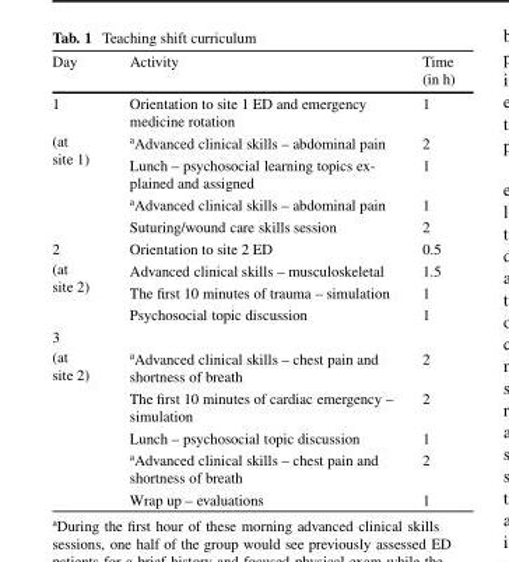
<table><thead><tr><td>Day</td><td>Activity</td><td>Time (in h)</td></tr></thead><tbody><tr><td>1</td><td>Orientation to site 1 ED and emergency medicine rotation</td><td>1</td></tr><tr><td rowspan="4">(at site 1)</td><td><sup>a</sup>Advanced clinical skills – abdominal pain</td><td>2</td></tr><tr><td>Lunch – psychosocial learning topics ex- plained and assigned</td><td>1</td></tr><tr><td><sup>a</sup>Advanced clinical skills – abdominal pain</td><td>1</td></tr><tr><td>Suturing/wound care skills session</td><td>2</td></tr><tr><td>2</td><td>Orientation to site 2 ED</td><td>0.5</td></tr><tr><td rowspan="3">(at site 2)</td><td>Advanced clinical skills – musculoskeletal</td><td>1.5</td></tr><tr><td>The first 10 minutes of trauma – simulation</td><td>1</td></tr><tr><td>Psychosocial topic discussion</td><td>1</td></tr><tr><td colspan="3">3</td></tr><tr><td rowspan="5">(at site 2)</td><td><sup>a</sup>Advanced clinical skills – chest pain and shortness of breath</td><td>2</td></tr><tr><td>The first 10 minutes of cardiac emergency – simulation</td><td>2</td></tr><tr><td>Lunch – psychosocial topic discussion</td><td>1</td></tr><tr><td><sup>a</sup>Advanced clinical skills – chest pain and shortness of breath</td><td>2</td></tr><tr><td>Wrap up – evaluations</td><td>1</td></tr></tbody></table>